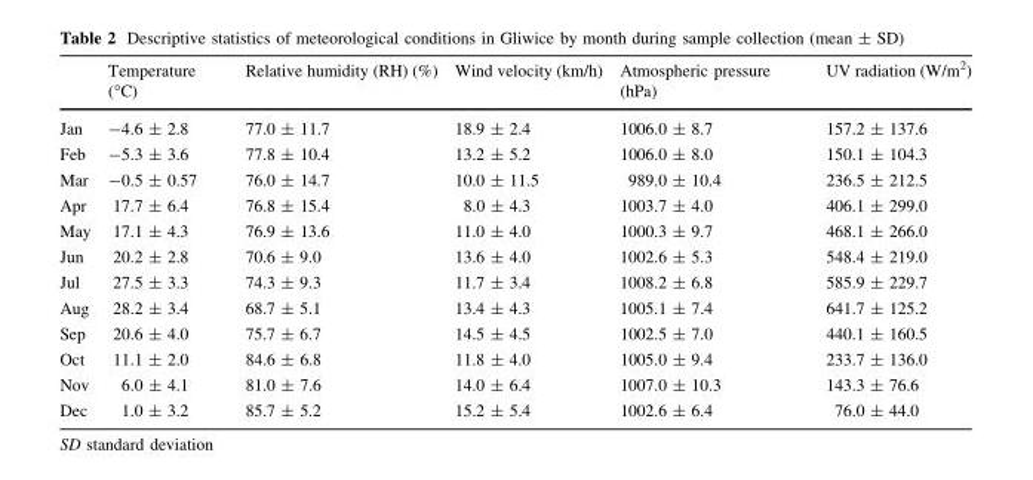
<table><thead><tr><td></td><td>Temperature (°C)</td><td>Relative humidity (RH) (%)</td><td>Wind velocity (km/h)</td><td>Atmospheric pressure (hPa)</td><td>UV radiation (W/m<sup>2</sup>)</td></tr></thead><tbody><tr><td>Jan</td><td>-4.6 ± 2.8</td><td>77.0 ± 11.7</td><td>18.9 ± 2.4</td><td>1006.0 ± 8.7</td><td>157.2 ± 137.6</td></tr><tr><td>Feb</td><td>-5.3 ± 3.6</td><td>77.8 ± 10.4</td><td>13.2 ± 5.2</td><td>1006.0 ± 8.0</td><td>150.1 ± 104.3</td></tr><tr><td>Mar</td><td>-0.5 ± 0.57</td><td>76.0 ± 14.7</td><td>10.0 ± 11.5</td><td>989.0 ± 10.4</td><td>236.5 ± 212.5</td></tr><tr><td>Apr</td><td>17.7 ± 6.4</td><td>76.8 ± 15.4</td><td>8.0 ± 4.3</td><td>1003.7 ± 4.0</td><td>406.1 ± 299.0</td></tr><tr><td>May</td><td>17.1 ± 4.3</td><td>76.9 ± 13.6</td><td>11.0 ± 4.0</td><td>1000.3 ± 9.7</td><td>468.1 ± 266.0</td></tr><tr><td>Jun</td><td>20.2 ± 2.8</td><td>70.6 ± 9.0</td><td>13.6 ± 4.0</td><td>1002.6 ± 5.3</td><td>548.4 ± 219.0</td></tr><tr><td>Jul</td><td>27.5 ± 3.3</td><td>74.3 ± 9.3</td><td>11.7 ± 3.4</td><td>1008.2 ± 6.8</td><td>585.9 ± 229.7</td></tr><tr><td>Aug</td><td>28.2 ± 3.4</td><td>68.7 ± 5.1</td><td>13.4 ± 4.3</td><td>1005.1 ± 7.4</td><td>641.7 ± 125.2</td></tr><tr><td>Sep</td><td>20.6 ± 4.0</td><td>75.7 ± 6.7</td><td>14.5 ± 4.5</td><td>1002.5 ± 7.0</td><td>440.1 ± 160.5</td></tr><tr><td>Oct</td><td>11.1 ± 2.0</td><td>84.6 ± 6.8</td><td>11.8 ± 4.0</td><td>1005.0 ± 9.4</td><td>233.7 ± 136.0</td></tr><tr><td>Nov</td><td>6.0 ± 4.1</td><td>81.0 ± 7.6</td><td>14.0 ± 6.4</td><td>1007.0 ± 10.3</td><td>143.3 ± 76.6</td></tr><tr><td>Dec</td><td>1.0 ± 3.2</td><td>85.7 ± 5.2</td><td>15.2 ± 5.4</td><td>1002.6 ± 6.4</td><td>76.0 ± 44.0</td></tr></tbody></table>